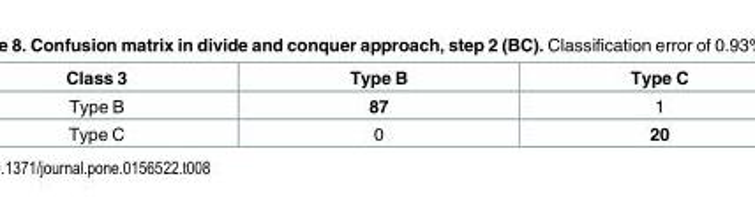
<table><thead><tr><td>Class 3</td><td>Type B</td><td>Type C</td></tr></thead><tbody><tr><td>Type B</td><td>87</td><td>1</td></tr><tr><td>Type C</td><td>0</td><td>20</td></tr></tbody></table>